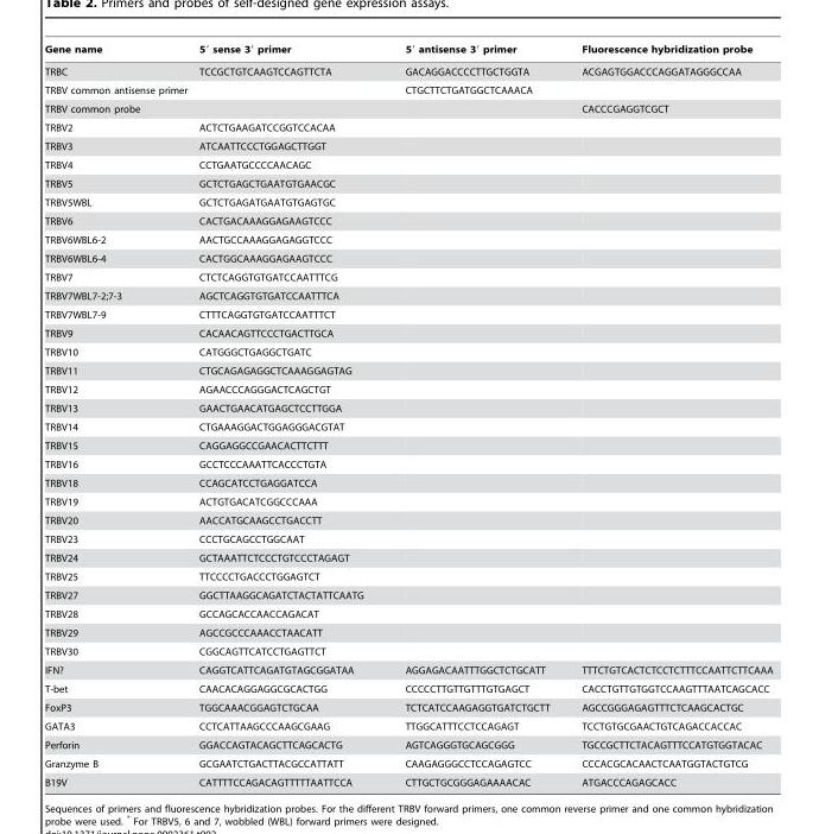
<table><thead><tr><td>Gene name</td><td>5′ sense 3′ primer</td><td>5′ antisense 3′ primer</td><td>Fluorescence hybridization probe</td></tr></thead><tbody><tr><td>TRBC</td><td>TCCGCTGTCAAGTCCAGTTCTA</td><td>GACAGGACCCCTTGCTGGTA</td><td>ACGAGTGGACCCAGGATAGGGCCAA</td></tr><tr><td>TRBV common antisense primer</td><td></td><td>CTGCTTCTGATGGCTCAAACA</td><td></td></tr><tr><td>TRBV common probe</td><td></td><td></td><td>CACCCGAGGTCGCT</td></tr><tr><td>TRBV2</td><td>ACTCTGAAGATCCGGTCCACAA</td><td></td><td></td></tr><tr><td>TRBV3</td><td>ATCAATTCCCTGGAGCTTGGT</td><td></td><td></td></tr><tr><td>TRBV4</td><td>CCTGAATGCCCCAACAGC</td><td></td><td></td></tr><tr><td>TRBV5</td><td>GCTCTGAGCTGAATGTGAACGC</td><td></td><td></td></tr><tr><td>TRBV5WBL</td><td>GCTCTGAGATGAATGTGAGTGC</td><td></td><td></td></tr><tr><td>TRBV6</td><td>CACTGACAAAGGAGAAGTCCC</td><td></td><td></td></tr><tr><td>TRBV6WBL6-2</td><td>AACTGCCAAAGGAGAGGTCCC</td><td></td><td></td></tr><tr><td>TRBV6WBL6-4</td><td>CACTGGCAAAGGAGAAGTCCC</td><td></td><td></td></tr><tr><td>TRBV7</td><td>CTCTCAGGTGTGATCCAATTTCG</td><td></td><td></td></tr><tr><td>TRBV7WBL7-2;7-3</td><td>AGCTCAGGTGTGATCCAATTTCA</td><td></td><td></td></tr><tr><td>TRBV7WBL7-9</td><td>CTTTCAGGTGTGATCCAATTTCT</td><td></td><td></td></tr><tr><td>TRBV9</td><td>CACAACAGTTCCCTGACTTGCA</td><td></td><td></td></tr><tr><td>TRBV10</td><td>CATGGGCTGAGGCTGATC</td><td></td><td></td></tr><tr><td>TRBV11</td><td>CTGCAGAGAGGCTCAAAGGAGTAG</td><td></td><td></td></tr><tr><td>TRBV12</td><td>AGAACCCAGGGACTCAGCTGT</td><td></td><td></td></tr><tr><td>TRBV13</td><td>GAACTGAACATGAGCTCCTTGGA</td><td></td><td></td></tr><tr><td>TRBV14</td><td>CTGAAAGGACTGGAGGGACGTAT</td><td></td><td></td></tr><tr><td>TRBV15</td><td>CAGGAGGCCGAACACTTCTTT</td><td></td><td></td></tr><tr><td>TRBV16</td><td>GCCTCCCAAATTCACCCTGTA</td><td></td><td></td></tr><tr><td>TRBV18</td><td>CCAGCATCCTGAGGATCCA</td><td></td><td></td></tr><tr><td>TRBV19</td><td>ACTGTGACATCGGCCCAAA</td><td></td><td></td></tr><tr><td>TRBV20</td><td>AACCATGCAAGCCTGACCTT</td><td></td><td></td></tr><tr><td>TRBV23</td><td>CCCTGCAGCCTGGCAAT</td><td></td><td></td></tr><tr><td>TRBV24</td><td>GCTAAATTCTCCCTGTCCCTAGAGT</td><td></td><td></td></tr><tr><td>TRBV25</td><td>TTCCCCTGACCCTGGAGTCT</td><td></td><td></td></tr><tr><td>TRBV27</td><td>GGCTTAAGGCAGATCTACTATTCAATG</td><td></td><td></td></tr><tr><td>TRBV28</td><td>GCCAGCACCAACCAGACAT</td><td></td><td></td></tr><tr><td>TRBV29</td><td>AGCCGCCCAAACCTAACATT</td><td></td><td></td></tr><tr><td>TRBV30</td><td>CGGCAGTTCATCCTGAGTTCT</td><td></td><td></td></tr><tr><td>IFN?</td><td>CAGGTCATTCAGATGTAGCGGATAA</td><td>AGGAGACAATTTGGCTCTGCATT</td><td>TTTCTGTCACTCTCCTCTTTCCAATTCTTCAAA</td></tr><tr><td>T-bet</td><td>CAACACAGGAGGCGCACTGG</td><td>CCCCCTTGTTGTTTGTGAGCT</td><td>CACCTGTTGTGGTCCAAGTTTAATCAGCACC</td></tr><tr><td>FoxP3</td><td>TGGCAAACGGAGTCTGCAA</td><td>TCTCATCCAAGAGGTGATCTGCTT</td><td>AGCCGGGAGAGTTTCTCAAGCACTGC</td></tr><tr><td>GATA3</td><td>CCTCATTAAGCCCAAGCGAAG</td><td>TTGGCATTTCCTCCAGAGT</td><td>TCCTGTGCGAACTGTCAGACCACCAC</td></tr><tr><td>Perforin</td><td>GGACCAGTACAGCTTCAGCACTG</td><td>AGTCAGGGTGCAGCGGG</td><td>TGCCGCTTCTACAGTTTCCATGTGGTACAC</td></tr><tr><td>Granzyme B</td><td>GCGAATCTGACTTACGCCATTATT</td><td>CAAGAGGGCCTCCAGAGTCC</td><td>CCCACGCACAACTCAATGGTACTGTCG</td></tr><tr><td>B19V</td><td>CATTTTCCAGACAGTTTTTAATTCCA</td><td>CTTGCTGCGGGAGAAAACAC</td><td>ATGACCCAGAGCACC</td></tr></tbody></table>